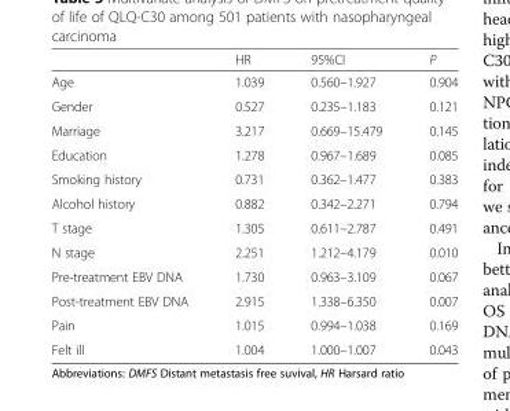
<table><thead><tr><td></td><td>HR</td><td>95%CI</td><td>P</td></tr></thead><tbody><tr><td>Age</td><td>1.039</td><td>0.560–1.927</td><td>0.904</td></tr><tr><td>Gender</td><td>0.527</td><td>0.235–1.183</td><td>0.121</td></tr><tr><td>Marriage</td><td>3.217</td><td>0.669–15.479</td><td>0.145</td></tr><tr><td>Education</td><td>1.278</td><td>0.967–1.689</td><td>0.085</td></tr><tr><td>Smoking history</td><td>0.731</td><td>0.362–1.477</td><td>0.383</td></tr><tr><td>Alcohol history</td><td>0.882</td><td>0.342–2.271</td><td>0.794</td></tr><tr><td>T stage</td><td>1.305</td><td>0.611–2.787</td><td>0.491</td></tr><tr><td>N stage</td><td>2.251</td><td>1.212–4.179</td><td>0.010</td></tr><tr><td>Pre-treatment EBV DNA</td><td>1.730</td><td>0.963–3.109</td><td>0.067</td></tr><tr><td>Post-treatment EBV DNA</td><td>2.915</td><td>1.338–6.350</td><td>0.007</td></tr><tr><td>Pain</td><td>1.015</td><td>0.994–1.038</td><td>0.169</td></tr><tr><td>Felt ill</td><td>1.004</td><td>1.000–1.007</td><td>0.043</td></tr></tbody></table>